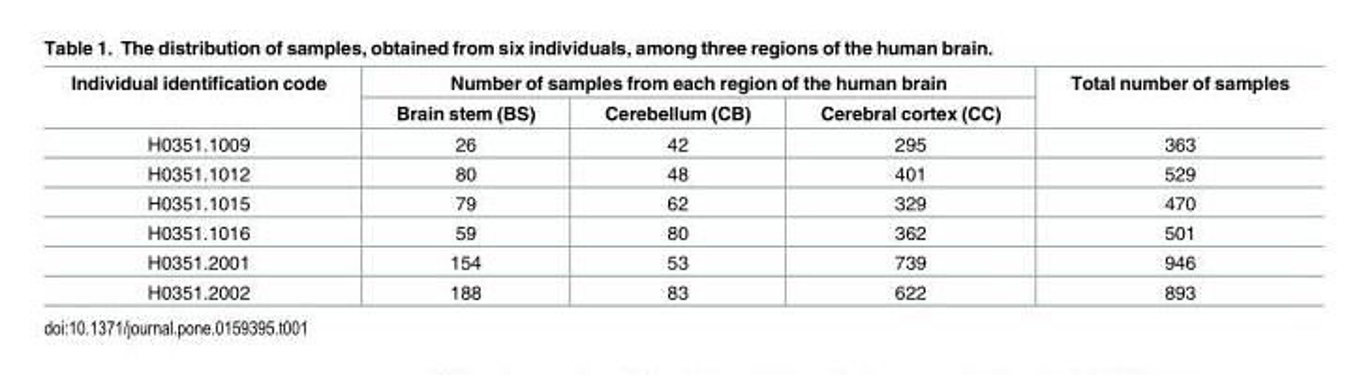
<table><thead><tr><td rowspan="2">Individual identification code</td><td colspan="3">Number of samples from each region of the human brain</td><td rowspan="2">Total number of samples</td></tr><tr><td>Brain stem (BS)</td><td>Cerebellum (CB)</td><td>Cerebral cortex (CC)</td></tr></thead><tbody><tr><td>H0351.1009</td><td>26</td><td>42</td><td>295</td><td>363</td></tr><tr><td>H0351.1012</td><td>80</td><td>48</td><td>401</td><td>529</td></tr><tr><td>H0351.1015</td><td>79</td><td>62</td><td>329</td><td>470</td></tr><tr><td>H0351.1016</td><td>59</td><td>80</td><td>362</td><td>501</td></tr><tr><td>H0351.2001</td><td>154</td><td>53</td><td>739</td><td>946</td></tr><tr><td>H0351.2002</td><td>188</td><td>83</td><td>622</td><td>893</td></tr></tbody></table>